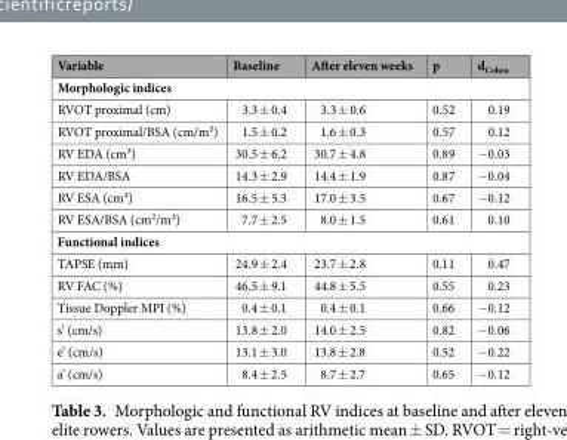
<table><thead><tr><td>Variable</td><td>Baseline</td><td>After eleven weeks</td><td>p</td><td>d<sub>Cohen</sub></td></tr></thead><tbody><tr><td colspan="5">Morphologic indices</td></tr><tr><td>RVOT proximal (cm)</td><td>3.3 ± 0.4</td><td>3.3 ± 0.6</td><td>0.52</td><td>0.19</td></tr><tr><td>RVOT proximal/BSA (cm/m²)</td><td>1.5 ± 0.2</td><td>1.6 ± 0.3</td><td>0.57</td><td>0.12</td></tr><tr><td>RV EDA (cm²)</td><td>30.5 ± 6.2</td><td>30.7 ± 4.8</td><td>0.89</td><td>−0.03</td></tr><tr><td>RV EDA/BSA</td><td>14.3 ± 2.9</td><td>14.4 ± 1.9</td><td>0.87</td><td>−0.04</td></tr><tr><td>RV ESA (cm²)</td><td>16.5 ± 5.3</td><td>17.0 ± 3.5</td><td>0.67</td><td>−0.12</td></tr><tr><td>RV ESA/BSA (cm²/m²)</td><td>7.7 ± 2.5</td><td>8.0 ± 1.5</td><td>0.61</td><td>0.10</td></tr><tr><td colspan="5">Functional indices</td></tr><tr><td>TAPSE (mm)</td><td>24.9 ± 2.4</td><td>23.7 ± 2.8</td><td>0.11</td><td>0.47</td></tr><tr><td>RV FAC (%)</td><td>46.5 ± 9.1</td><td>44.8 ± 5.5</td><td>0.55</td><td>0.23</td></tr><tr><td>Tissue Doppler MPI (%)</td><td>0.4 ± 0.1</td><td>0.4 ± 0.1</td><td>0.66</td><td>−0.12</td></tr><tr><td>s’ (cm/s)</td><td>13.8 ± 2.0</td><td>14.0 ± 2.5</td><td>0.82</td><td>−0.06</td></tr><tr><td>e’ (cm/s)</td><td>13.1 ± 3.0</td><td>13.8 ± 2.8</td><td>0.52</td><td>−0.22</td></tr><tr><td>a’ (cm/s)</td><td>8.4 ± 2.5</td><td>8.7 ± 2.7</td><td>0.65</td><td>−0.12</td></tr></tbody></table>